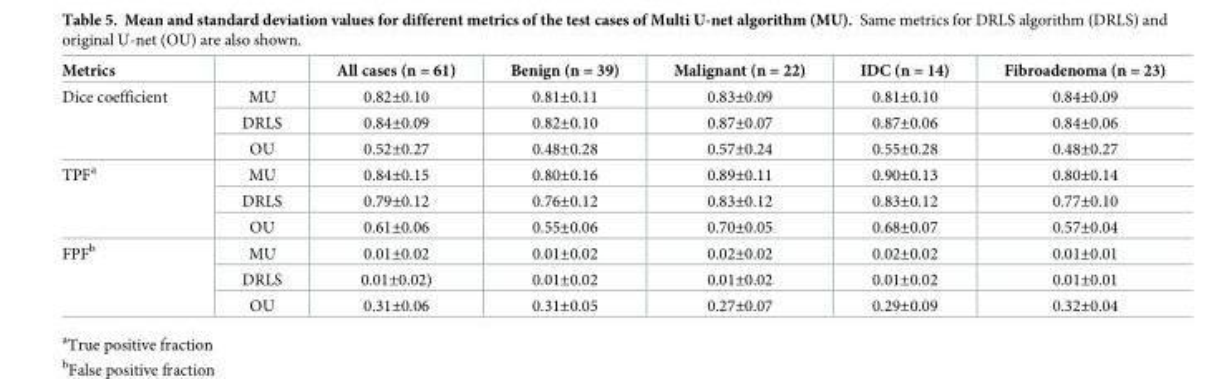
<table><thead><tr><td>Metrics</td><td></td><td>All cases (n = 61)</td><td>Benign (n = 39)</td><td>Malignant (n = 22)</td><td>IDC (n = 14)</td><td>Fibroadenoma (n = 23)</td></tr></thead><tbody><tr><td rowspan="3">Dice coefficient</td><td>MU</td><td>0.82±0.10</td><td>0.81±0.11</td><td>0.83±0.09</td><td>0.81±0.10</td><td>0.84±0.09</td></tr><tr><td>DRLS</td><td>0.84±0.09</td><td>0.82±0.10</td><td>0.87±0.07</td><td>0.87±0.06</td><td>0.84±0.06</td></tr><tr><td>OU</td><td>0.52±0.27</td><td>0.48±0.28</td><td>0.57±0.24</td><td>0.55±0.28</td><td>0.48±0.27</td></tr><tr><td rowspan="3">TPF<sup>a</sup></td><td>MU</td><td>0.84±0.15</td><td>0.80±0.16</td><td>0.89±0.11</td><td>0.90±0.13</td><td>0.80±0.14</td></tr><tr><td>DRLS</td><td>0.79±0.12</td><td>0.76±0.12</td><td>0.83±0.12</td><td>0.83±0.12</td><td>0.77±0.10</td></tr><tr><td>OU</td><td>0.61±0.06</td><td>0.55±0.06</td><td>0.70±0.05</td><td>0.68±0.07</td><td>0.57±0.04</td></tr><tr><td rowspan="3">FPF<sup>b</sup></td><td>MU</td><td>0.01±0.02</td><td>0.01±0.02</td><td>0.02±0.02</td><td>0.02±0.02</td><td>0.01±0.01</td></tr><tr><td>DRLS</td><td>0.01±0.02)</td><td>0.01±0.02</td><td>0.01±0.02</td><td>0.01±0.02</td><td>0.01±0.01</td></tr><tr><td>OU</td><td>0.31±0.06</td><td>0.31±0.05</td><td>0.27±0.07</td><td>0.29±0.09</td><td>0.32±0.04</td></tr></tbody></table>